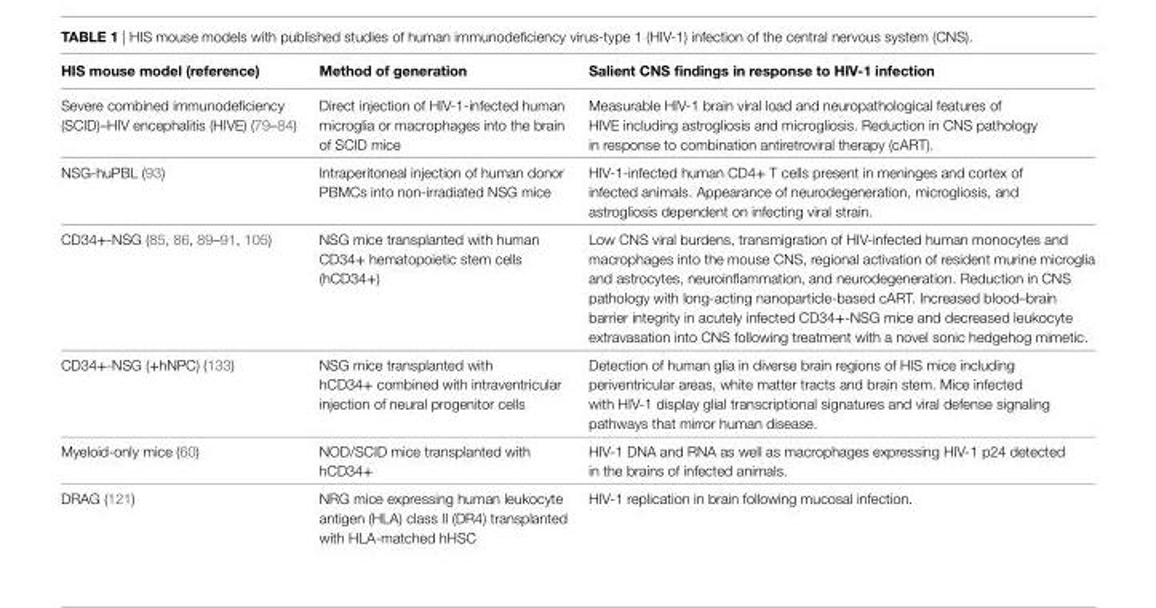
<table><thead><tr><td>HiS mouse model (reference)</td><td>Method of generation</td><td>Salient CnS findings in response to Hiv-1 infection</td></tr></thead><tbody><tr><td>Severe combined immunodeficiency (SCID)–HIV encephalitis (HIVE) (79–84)</td><td>Direct injection of HIV-1-infected human microglia or macrophages into the brain of SCID mice</td><td>Measurable HIV-1 brain viral load and neuropathological features of HIVE including astrogliosis and microgliosis. Reduction in CNS pathology in response to combination antiretroviral therapy (cART).</td></tr><tr><td>NSG-huPBL (93)</td><td>Intraperitoneal injection of human donor PBMCs into non-irradiated NSG mice</td><td>HIV-1-infected human CD4+ T cells present in meninges and cortex of infected animals. Appearance of neurodegeneration, microgliosis, and astrogliosis dependent on infecting viral strain.</td></tr><tr><td>CD34+-NSG (85, 86, 89–91, 105)</td><td>NSG mice transplanted with human CD34+ hematopoietic stem cells (hCD34+)</td><td>Low CNS viral burdens, transmigration of HIV-infected human monocytes and macrophages into the mouse CNS, regional activation of resident murine microglia and astrocytes, neuroinflammation, and neurodegeneration. Reduction in CNS pathology with long-acting nanoparticle-based cART. Increased blood–brain barrier integrity in acutely infected CD34+-NSG mice and decreased leukocyte extravasation into CNS following treatment with a novel sonic hedgehog mimetic.</td></tr><tr><td>CD34+-NSG (+hNPC) (133)</td><td>NSG mice transplanted with hCD34+ combined with intraventricular injection of neural progenitor cells</td><td>Detection of human glia in diverse brain regions of HIS mice including periventricular areas, white matter tracts and brain stem. Mice infected with HIV-1 display glial transcriptional signatures and viral defense signaling pathways that mirror human disease.</td></tr><tr><td>Myeloid-only mice (60)</td><td>NOD/SCID mice transplanted with hCD34+</td><td>HIV-1 DNA and RNA as well as macrophages expressing HIV-1 p24 detected in the brains of infected animals.</td></tr><tr><td>DRAG (121)</td><td>NRG mice expressing human leukocyte antigen (HLA) class II (DR4) transplanted with HLA-matched hHSC</td><td>HIV-1 replication in brain following mucosal infection.</td></tr></tbody></table>